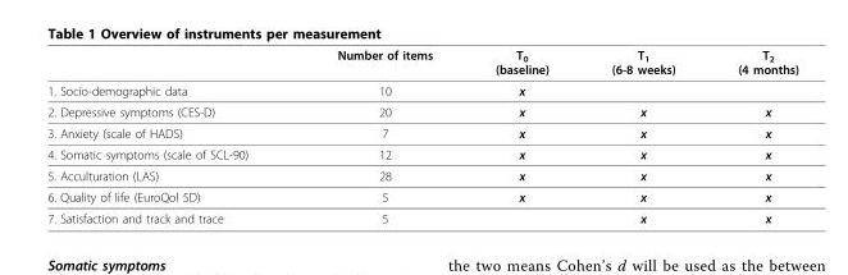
<table><thead><tr><td></td><td>Number of items</td><td>T<sub>0</sub> (baseline)</td><td>T<sub>1</sub> (6-8 weeks)</td><td>T<sub>2</sub> (4 months)</td></tr></thead><tbody><tr><td>1. Socio-demographic data</td><td>10</td><td>x</td><td></td><td></td></tr><tr><td>2. Depressive symptoms (CES-D)</td><td>20</td><td>x</td><td>x</td><td>x</td></tr><tr><td>3. Anxiety (scale of HADS)</td><td>7</td><td>x</td><td>x</td><td>x</td></tr><tr><td>4. Somatic symptoms (scale of SCL-90)</td><td>12</td><td>x</td><td>x</td><td>x</td></tr><tr><td>5. Acculturation (LAS)</td><td>28</td><td>x</td><td>x</td><td>x</td></tr><tr><td>6. Quality of life (EuroQol 5D)</td><td>5</td><td>x</td><td>x</td><td>x</td></tr><tr><td>7. Satisfaction and track and trace</td><td>5</td><td></td><td>x</td><td>x</td></tr></tbody></table>